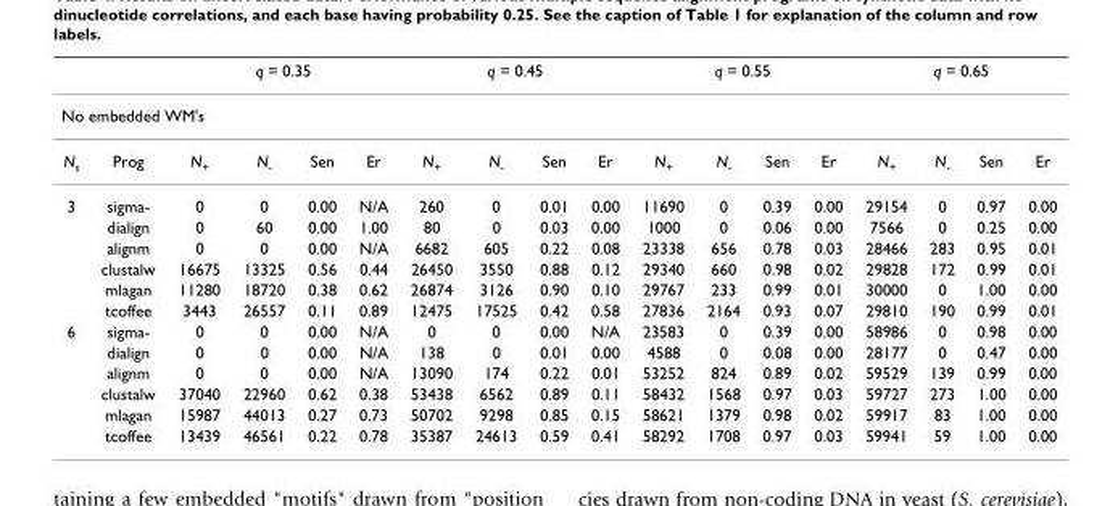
<table><thead><tr><td></td><td></td><td colspan="4">q = 0.35</td><td colspan="4">q = 0.45</td><td colspan="4">q = 0.55</td><td colspan="4">q = 0.65</td></tr><tr><td colspan="18">No embedded WM&#x27;s</td></tr><tr><td>N<sub>s</sub></td><td>Prog</td><td>N<sub>+</sub></td><td>N<sub>-</sub></td><td>Sen</td><td>Er</td><td>N<sub>+</sub></td><td>N<sub>-</sub></td><td>Sen</td><td>Er</td><td>N<sub>+</sub></td><td>N<sub>-</sub></td><td>Sen</td><td>Er</td><td>N<sub>+</sub></td><td>N<sub>-</sub></td><td>Sen</td><td>Er</td></tr></thead><tbody><tr><td rowspan="6">3</td><td>sigma-</td><td>0</td><td>0</td><td>0.00</td><td>N/A</td><td>260</td><td>0</td><td>0.01</td><td>0.00</td><td>11690</td><td>0</td><td>0.39</td><td>0.00</td><td>29154</td><td>0</td><td>0.97</td><td>0.00</td></tr><tr><td>dialign</td><td>0</td><td>60</td><td>0.00</td><td>1.00</td><td>80</td><td>0</td><td>0.03</td><td>0.00</td><td>1000</td><td>0</td><td>0.06</td><td>0.00</td><td>7566</td><td>0</td><td>0.25</td><td>0.00</td></tr><tr><td>alignm</td><td>0</td><td>0</td><td>0.00</td><td>N/A</td><td>6682</td><td>605</td><td>0.22</td><td>0.08</td><td>23338</td><td>656</td><td>0.78</td><td>0.03</td><td>28466</td><td>283</td><td>0.95</td><td>0.01</td></tr><tr><td>clustalw</td><td>16675</td><td>13325</td><td>0.56</td><td>0.44</td><td>26450</td><td>3550</td><td>0.88</td><td>0.12</td><td>29340</td><td>660</td><td>0.98</td><td>0.02</td><td>29828</td><td>172</td><td>0.99</td><td>0.01</td></tr><tr><td>mlagan</td><td>11280</td><td>18720</td><td>0.38</td><td>0.62</td><td>26874</td><td>3126</td><td>0.90</td><td>0.10</td><td>29767</td><td>233</td><td>0.99</td><td>0.01</td><td>30000</td><td>0</td><td>1.00</td><td>0.00</td></tr><tr><td>tcoffee</td><td>3443</td><td>26557</td><td>0.11</td><td>0.89</td><td>12475</td><td>17525</td><td>0.42</td><td>0.58</td><td>27836</td><td>2164</td><td>0.93</td><td>0.07</td><td>29810</td><td>190</td><td>0.99</td><td>0.01</td></tr><tr><td rowspan="6">6</td><td>sigma-</td><td>0</td><td>0</td><td>0.00</td><td>N/A</td><td>0</td><td>0</td><td>0.00</td><td>N/A</td><td>23583</td><td>0</td><td>0.39</td><td>0.00</td><td>58986</td><td>0</td><td>0.98</td><td>0.00</td></tr><tr><td>dialign</td><td>0</td><td>0</td><td>0.00</td><td>N/A</td><td>138</td><td>0</td><td>0.01</td><td>0.00</td><td>4588</td><td>0</td><td>0.08</td><td>0.00</td><td>28177</td><td>0</td><td>0.47</td><td>0.00</td></tr><tr><td>alignm</td><td>0</td><td>0</td><td>0.00</td><td>N/A</td><td>13090</td><td>174</td><td>0.22</td><td>0.01</td><td>53252</td><td>824</td><td>0.89</td><td>0.02</td><td>59529</td><td>139</td><td>0.99</td><td>0.00</td></tr><tr><td>clustalw</td><td>37040</td><td>22960</td><td>0.62</td><td>0.38</td><td>53438</td><td>6562</td><td>0.89</td><td>0.11</td><td>58432</td><td>1568</td><td>0.97</td><td>0.03</td><td>59727</td><td>273</td><td>1.00</td><td>0.00</td></tr><tr><td>mlagan</td><td>15987</td><td>44013</td><td>0.27</td><td>0.73</td><td>50702</td><td>9298</td><td>0.85</td><td>0.15</td><td>58621</td><td>1379</td><td>0.98</td><td>0.02</td><td>59917</td><td>83</td><td>1.00</td><td>0.00</td></tr><tr><td>tcoffee</td><td>13439</td><td>46561</td><td>0.22</td><td>0.78</td><td>35387</td><td>24613</td><td>0.59</td><td>0.41</td><td>58292</td><td>1708</td><td>0.97</td><td>0.03</td><td>59941</td><td>59</td><td>1.00</td><td>0.00</td></tr></tbody></table>